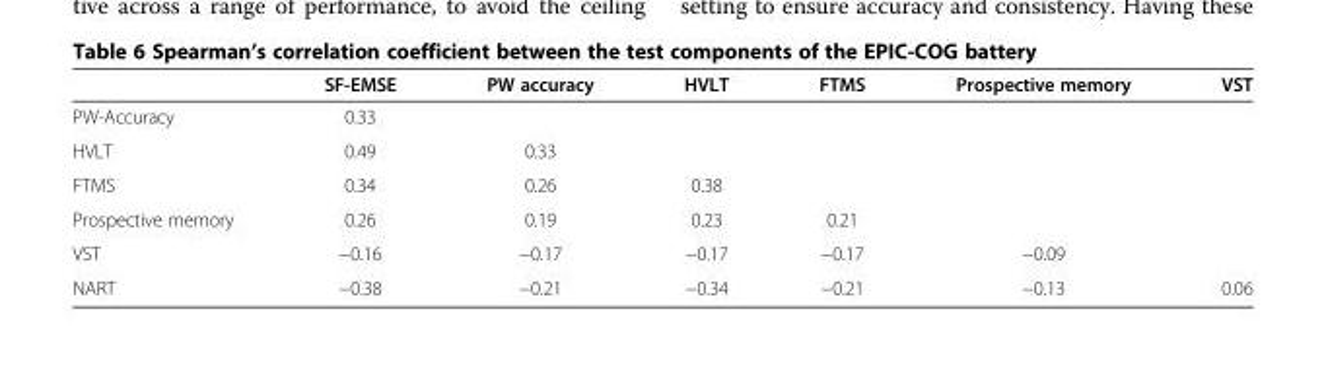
<table><thead><tr><td></td><td>SF-EMSE</td><td>PW accuracy</td><td>HVLT</td><td>FTMS</td><td>Prospective memory</td><td>VST</td></tr></thead><tbody><tr><td>PW-Accuracy</td><td>0.33</td><td></td><td></td><td></td><td></td><td></td></tr><tr><td>HVLT</td><td>0.49</td><td>0.33</td><td></td><td></td><td></td><td></td></tr><tr><td>FTMS</td><td>0.34</td><td>0.26</td><td>0.38</td><td></td><td></td><td></td></tr><tr><td>Prospective memory</td><td>0.26</td><td>0.19</td><td>0.23</td><td>0.21</td><td></td><td></td></tr><tr><td>VST</td><td>−0.16</td><td>−0.17</td><td>−0.17</td><td>−0.17</td><td>−0.09</td><td></td></tr><tr><td>NART</td><td>−0.38</td><td>−0.21</td><td>−0.34</td><td>−0.21</td><td>−0.13</td><td>0.06</td></tr></tbody></table>